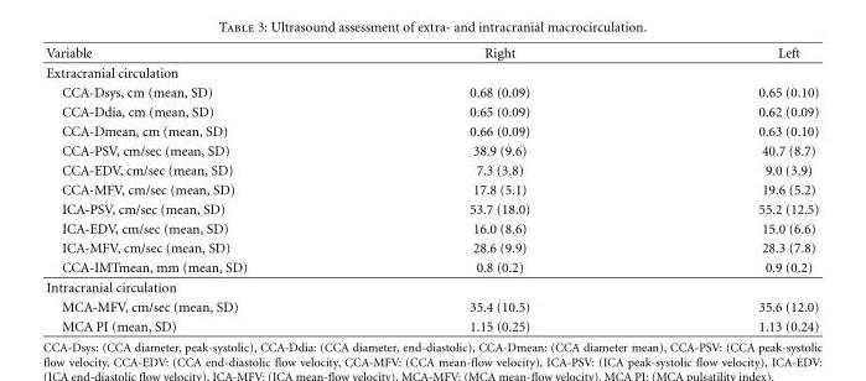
<table><thead><tr><td>Variable</td><td>Right</td><td>Left</td></tr></thead><tbody><tr><td colspan="3">Extracranial circulation</td></tr><tr><td>CCA-Dsys, cm (mean, SD)</td><td>0.68 (0.09)</td><td>0.65 (0.10)</td></tr><tr><td>CCA-Ddia, cm (mean, SD)</td><td>0.65 (0.09)</td><td>0.62 (0.09)</td></tr><tr><td>CCA-Dmean, cm (mean, SD)</td><td>0.66 (0.09)</td><td>0.63 (0.10)</td></tr><tr><td>CCA-PSV, cm/sec (mean, SD)</td><td>38.9 (9.6)</td><td>40.7 (8.7)</td></tr><tr><td>CCA-EDV, cm/sec (mean, SD)</td><td>7.3 (3.8)</td><td>9.0 (3.9)</td></tr><tr><td>CCA-MFV, cm/sec (mean, SD)</td><td>17.8 (5.1)</td><td>19.6 (5.2)</td></tr><tr><td>ICA-PSV, cm/sec (mean, SD)</td><td>53.7 (18.0)</td><td>55.2 (12.5)</td></tr><tr><td>ICA-EDV, cm/sec (mean, SD)</td><td>16.0 (8.6)</td><td>15.0 (6.6)</td></tr><tr><td>ICA-MFV, cm/sec (mean, SD)</td><td>28.6 (9.9)</td><td>28.3 (7.8)</td></tr><tr><td>CCA-IMTmean, mm (mean, SD)</td><td>0.8 (0.2)</td><td>0.9 (0.2)</td></tr><tr><td colspan="3">Intracranial circulation</td></tr><tr><td>MCA-MFV, cm/sec (mean, SD)</td><td>35.4 (10.5)</td><td>35.6 (12.0)</td></tr><tr><td>MCA PI (mean, SD)</td><td>1.15 (0.25)</td><td>1.13 (0.24)</td></tr></tbody></table>